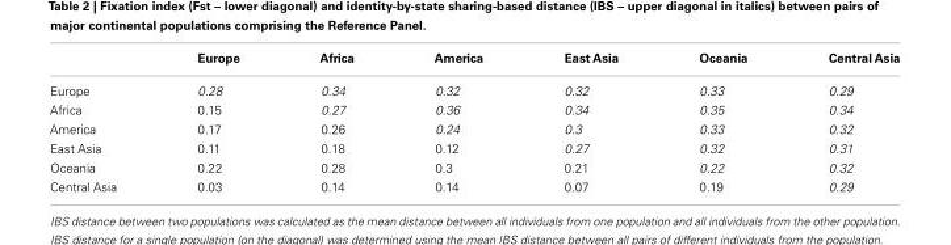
<table><thead><tr><td></td><td>Europe</td><td>Africa</td><td>America</td><td>East Asia</td><td>Oceania</td><td>Central Asia</td></tr></thead><tbody><tr><td>Europe</td><td>0.28</td><td>0.34</td><td>0.32</td><td>0.32</td><td>0.33</td><td>0.29</td></tr><tr><td>Africa</td><td>0.15</td><td>0.27</td><td>0.36</td><td>0.34</td><td>0.35</td><td>0.34</td></tr><tr><td>America</td><td>0.17</td><td>0.26</td><td>0.24</td><td>0.3</td><td>0.33</td><td>0.32</td></tr><tr><td>East Asia</td><td>0.11</td><td>0.18</td><td>0.12</td><td>0.27</td><td>0.32</td><td>0.31</td></tr><tr><td>Oceania</td><td>0.22</td><td>0.28</td><td>0.3</td><td>0.21</td><td>0.22</td><td>0.32</td></tr><tr><td>Central Asia</td><td>0.03</td><td>0.14</td><td>0.14</td><td>0.07</td><td>0.19</td><td>0.29</td></tr></tbody></table>